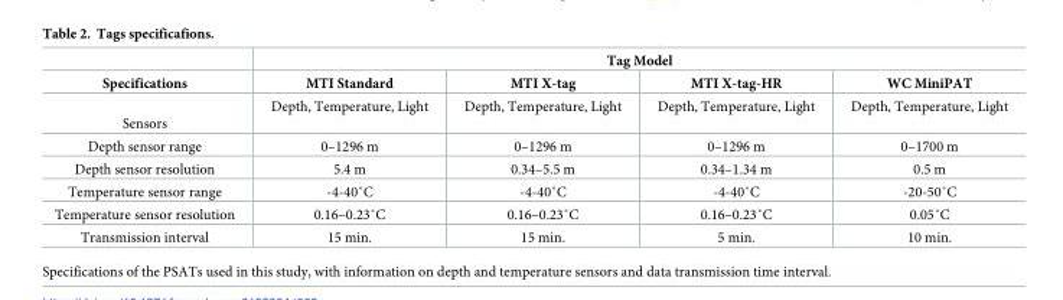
<table><thead><tr><td rowspan="2">Specifications</td><td colspan="4">Tag Model</td></tr><tr><td>MTI Standard</td><td>MTI X-tag</td><td>MTI X-tag-HR</td><td>WC MiniPAT</td></tr></thead><tbody><tr><td>Sensors</td><td>Depth, Temperature, Light</td><td>Depth, Temperature, Light</td><td>Depth, Temperature, Light</td><td>Depth, Temperature, Light</td></tr><tr><td>Depth sensor range</td><td>0–1296 m</td><td>0–1296 m</td><td>0–1296 m</td><td>0–1700 m</td></tr><tr><td>Depth sensor resolution</td><td>5.4 m</td><td>0.34–5.5 m</td><td>0.34–1.34 m</td><td>0.5 m</td></tr><tr><td>Temperature sensor range</td><td>-4-40˚C</td><td>-4-40˚C</td><td>-4-40˚C</td><td>-20-50˚C</td></tr><tr><td>Temperature sensor resolution</td><td>0.16–0.23˚C</td><td>0.16–0.23˚C</td><td>0.16–0.23˚C</td><td>0.05˚C</td></tr><tr><td>Transmission interval</td><td>15 min.</td><td>15 min.</td><td>5 min.</td><td>10 min.</td></tr></tbody></table>